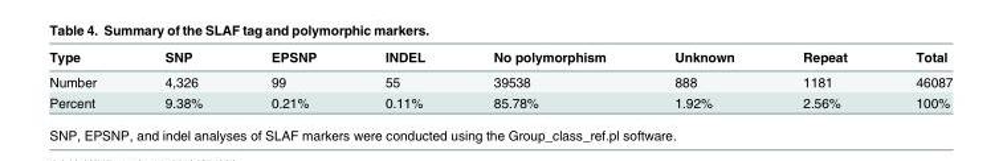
<table><thead><tr><td>Type</td><td>SNP</td><td>EPSNP</td><td>INDEL</td><td>No polymorphism</td><td>Unknown</td><td>Repeat</td><td>Total</td></tr></thead><tbody><tr><td>Number</td><td>4,326</td><td>99</td><td>55</td><td>39538</td><td>888</td><td>1181</td><td>46087</td></tr><tr><td>Percent</td><td>9.38%</td><td>0.21%</td><td>0.11%</td><td>85.78%</td><td>1.92%</td><td>2.56%</td><td>100%</td></tr></tbody></table>